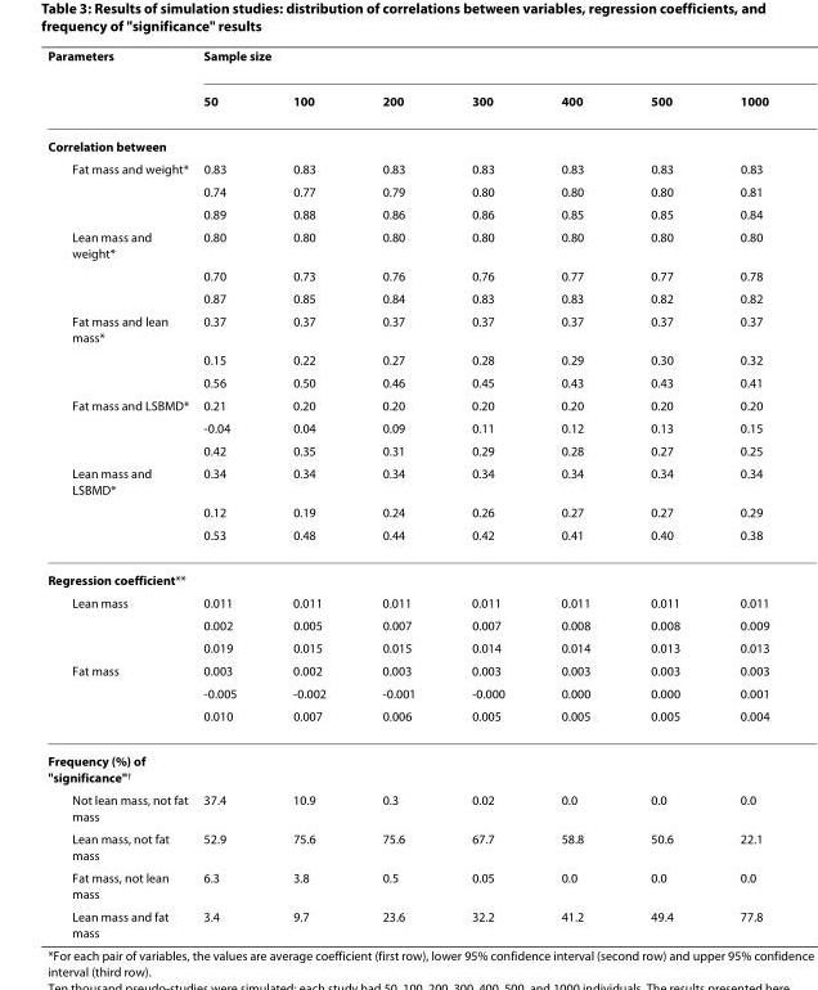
<table><thead><tr><td rowspan="2">Parameters</td><td colspan="7">Sample size</td></tr><tr><td>50</td><td>100</td><td>200</td><td>300</td><td>400</td><td>500</td><td>1000</td></tr></thead><tbody><tr><td colspan="8">Correlation between</td></tr><tr><td rowspan="3">Fat mass and weight*</td><td>0.83</td><td>0.83</td><td>0.83</td><td>0.83</td><td>0.83</td><td>0.83</td><td>0.83</td></tr><tr><td>0.74</td><td>0.77</td><td>0.79</td><td>0.80</td><td>0.80</td><td>0.80</td><td>0.81</td></tr><tr><td>0.89</td><td>0.88</td><td>0.86</td><td>0.86</td><td>0.85</td><td>0.85</td><td>0.84</td></tr><tr><td rowspan="3">Lean mass and weight*</td><td>0.80</td><td>0.80</td><td>0.80</td><td>0.80</td><td>0.80</td><td>0.80</td><td>0.80</td></tr><tr><td>0.70</td><td>0.73</td><td>0.76</td><td>0.76</td><td>0.77</td><td>0.77</td><td>0.78</td></tr><tr><td>0.87</td><td>0.85</td><td>0.84</td><td>0.83</td><td>0.83</td><td>0.82</td><td>0.82</td></tr><tr><td rowspan="3">Fat mass and lean mass*</td><td>0.37</td><td>0.37</td><td>0.37</td><td>0.37</td><td>0.37</td><td>0.37</td><td>0.37</td></tr><tr><td>0.15</td><td>0.22</td><td>0.27</td><td>0.28</td><td>0.29</td><td>0.30</td><td>0.32</td></tr><tr><td>0.56</td><td>0.50</td><td>0.46</td><td>0.45</td><td>0.43</td><td>0.43</td><td>0.41</td></tr><tr><td rowspan="3">Fat mass and LSBMD*</td><td>0.21</td><td>0.20</td><td>0.20</td><td>0.20</td><td>0.20</td><td>0.20</td><td>0.20</td></tr><tr><td>-0.04</td><td>0.04</td><td>0.09</td><td>0.11</td><td>0.12</td><td>0.13</td><td>0.15</td></tr><tr><td>0.42</td><td>0.35</td><td>0.31</td><td>0.29</td><td>0.28</td><td>0.27</td><td>0.25</td></tr><tr><td rowspan="3">Lean mass and LSBMD*</td><td>0.34</td><td>0.34</td><td>0.34</td><td>0.34</td><td>0.34</td><td>0.34</td><td>0.34</td></tr><tr><td>0.12</td><td>0.19</td><td>0.24</td><td>0.26</td><td>0.27</td><td>0.27</td><td>0.29</td></tr><tr><td>0.53</td><td>0.48</td><td>0.44</td><td>0.42</td><td>0.41</td><td>0.40</td><td>0.38</td></tr><tr><td colspan="8">Regression coefficient**</td></tr><tr><td rowspan="3">Lean mass</td><td>0.011</td><td>0.011</td><td>0.011</td><td>0.011</td><td>0.011</td><td>0.011</td><td>0.011</td></tr><tr><td>0.002</td><td>0.005</td><td>0.007</td><td>0.007</td><td>0.008</td><td>0.008</td><td>0.009</td></tr><tr><td>0.019</td><td>0.015</td><td>0.015</td><td>0.014</td><td>0.014</td><td>0.013</td><td>0.013</td></tr><tr><td rowspan="3">Fat mass</td><td>0.003</td><td>0.002</td><td>0.003</td><td>0.003</td><td>0.003</td><td>0.003</td><td>0.003</td></tr><tr><td>-0.005</td><td>-0.002</td><td>-0.001</td><td>-0.000</td><td>0.000</td><td>0.000</td><td>0.001</td></tr><tr><td>0.010</td><td>0.007</td><td>0.006</td><td>0.005</td><td>0.005</td><td>0.005</td><td>0.004</td></tr><tr><td colspan="8">Frequency (%) of &quot;significance&quot;<sup>†</sup></td></tr><tr><td>Not lean mass, not fat mass</td><td>37.4</td><td>10.9</td><td>0.3</td><td>0.02</td><td>0.0</td><td>0.0</td><td>0.0</td></tr><tr><td>Lean mass, not fat mass</td><td>52.9</td><td>75.6</td><td>75.6</td><td>67.7</td><td>58.8</td><td>50.6</td><td>22.1</td></tr><tr><td>Fat mass, not lean mass</td><td>6.3</td><td>3.8</td><td>0.5</td><td>0.05</td><td>0.0</td><td>0.0</td><td>0.0</td></tr><tr><td>Lean mass and fat mass</td><td>3.4</td><td>9.7</td><td>23.6</td><td>32.2</td><td>41.2</td><td>49.4</td><td>77.8</td></tr></tbody></table>